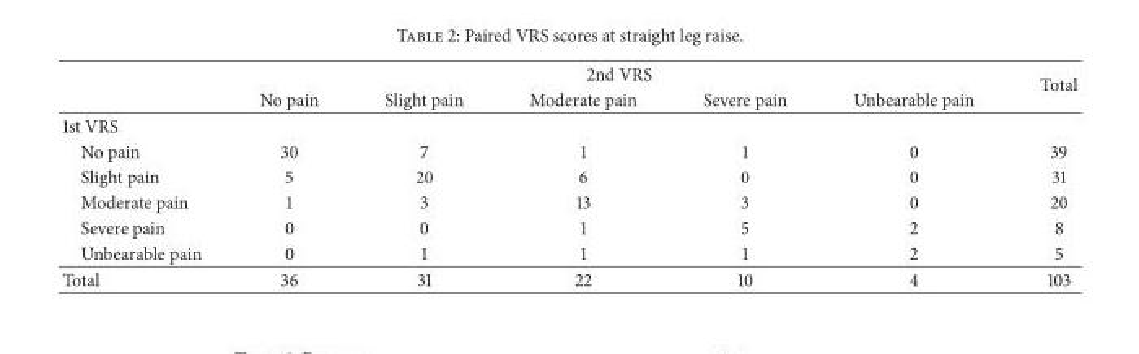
<table><thead><tr><td rowspan="2"></td><td colspan="5">2nd VRS</td><td rowspan="2">Total</td></tr><tr><td>No pain</td><td>Slight pain</td><td>Moderate pain</td><td>Severe pain</td><td>Unbearable pain</td></tr></thead><tbody><tr><td colspan="7">1st VRS</td></tr><tr><td>No pain</td><td>30</td><td>7</td><td>1</td><td>1</td><td>0</td><td>39</td></tr><tr><td>Slight pain</td><td>5</td><td>20</td><td>6</td><td>0</td><td>0</td><td>31</td></tr><tr><td>Moderate pain</td><td>1</td><td>3</td><td>13</td><td>3</td><td>0</td><td>20</td></tr><tr><td>Severe pain</td><td>0</td><td>0</td><td>1</td><td>5</td><td>2</td><td>8</td></tr><tr><td>Unbearable pain</td><td>0</td><td>1</td><td>1</td><td>1</td><td>2</td><td>5</td></tr><tr><td>Total</td><td>36</td><td>31</td><td>22</td><td>10</td><td>4</td><td>103</td></tr></tbody></table>